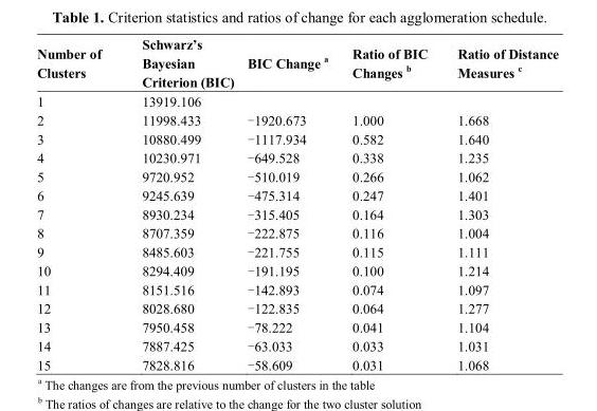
<table><thead><tr><td>Number of Clusters</td><td>Schwarz’s Bayesian Criterion (BIC)</td><td>BIC Change a</td><td>Ratio of BIC Changes b</td><td>Ratio of Distance Measures c</td></tr></thead><tbody><tr><td>1</td><td>13919.106</td><td></td><td></td><td></td></tr><tr><td>2</td><td>11998.433</td><td>-1920.673</td><td>1.000</td><td>1.668</td></tr><tr><td>3</td><td>10880.499</td><td>-1117.934</td><td>0.582</td><td>1.640</td></tr><tr><td>4</td><td>10230.971</td><td>-649.528</td><td>0.338</td><td>1.235</td></tr><tr><td>5</td><td>9720.952</td><td>-510.019</td><td>0.266</td><td>1.062</td></tr><tr><td>6</td><td>9245.639</td><td>-475.314</td><td>0.247</td><td>1.401</td></tr><tr><td>7</td><td>8930.234</td><td>-315.405</td><td>0.164</td><td>1.303</td></tr><tr><td>8</td><td>8707.359</td><td>-222.875</td><td>0.116</td><td>1.004</td></tr><tr><td>9</td><td>8485.603</td><td>-221.755</td><td>0.115</td><td>1.111</td></tr><tr><td>10</td><td>8294.409</td><td>-191.195</td><td>0.100</td><td>1.214</td></tr><tr><td>11</td><td>8151.516</td><td>-142.893</td><td>0.074</td><td>1.097</td></tr><tr><td>12</td><td>8028.680</td><td>-122.835</td><td>0.064</td><td>1.277</td></tr><tr><td>13</td><td>7950.458</td><td>-78.222</td><td>0.041</td><td>1.104</td></tr><tr><td>14</td><td>7887.425</td><td>-63.033</td><td>0.033</td><td>1.031</td></tr><tr><td>15</td><td>7828.816</td><td>-58.609</td><td>0.031</td><td>1.068</td></tr></tbody></table>